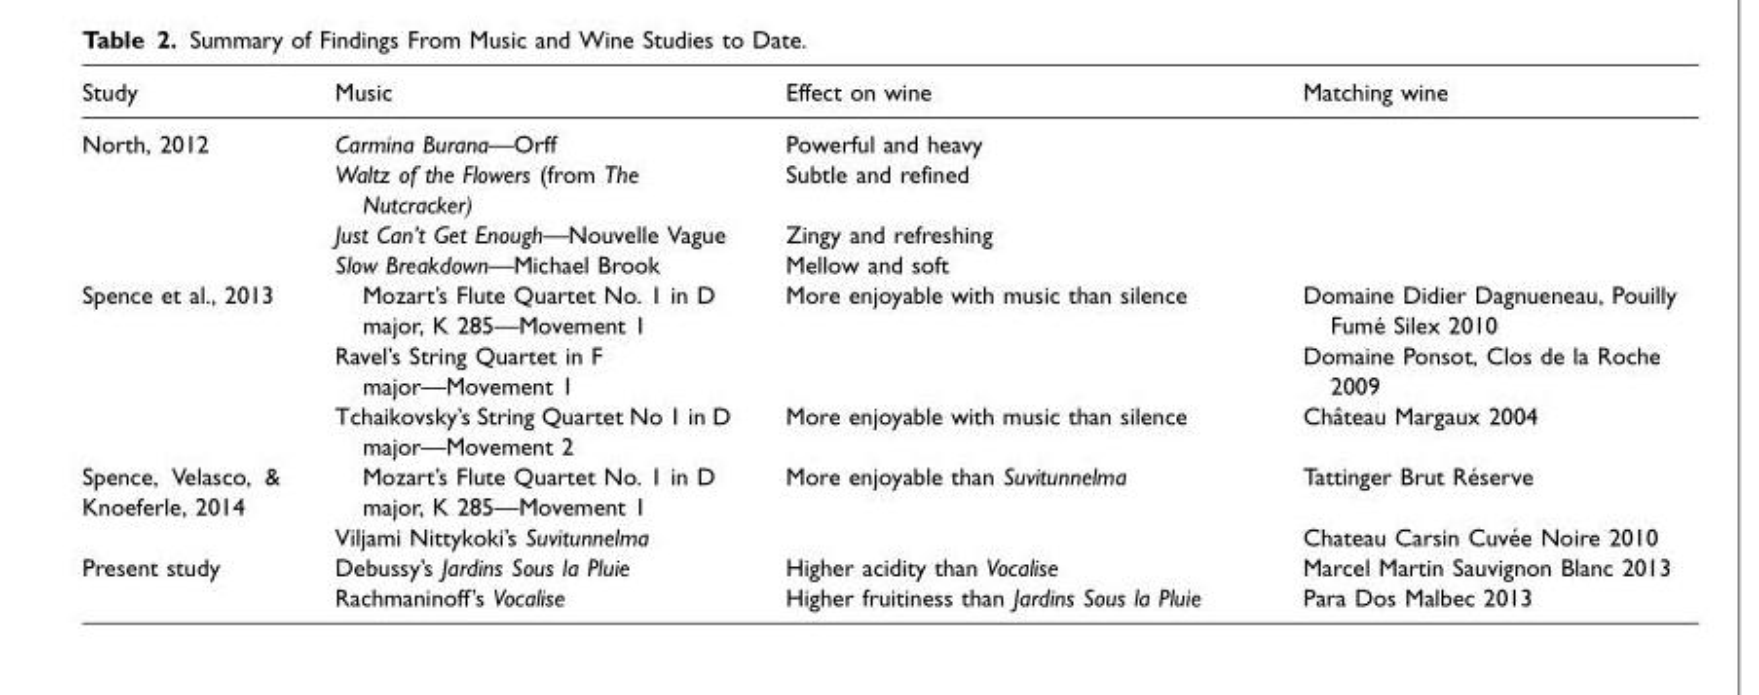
<table><thead><tr><td>Study</td><td>Music</td><td>Effect on wine</td><td>Matching wine</td></tr></thead><tbody><tr><td rowspan="4">North, 2012</td><td>Carmina Burana—Orff</td><td>Powerful and heavy</td><td></td></tr><tr><td>Waltz of the Flowers (from The Nutcracker)</td><td>Subtle and refined</td><td></td></tr><tr><td>Just Can’t Get Enough—Nouvelle Vague</td><td>Zingy and refreshing</td><td></td></tr><tr><td>Slow Breakdown—Michael Brook</td><td>Mellow and soft</td><td></td></tr><tr><td rowspan="3">Spence et al., 2013</td><td>Mozart’s Flute Quartet No. 1 in D major, K 285—Movement 1</td><td>More enjoyable with music than silence</td><td>Domaine Didier Dagnueneau, Pouilly Fume´ Silex 2010</td></tr><tr><td>Ravel’s String Quartet in F major—Movement 1</td><td></td><td>Domaine Ponsot, Clos de la Roche 2009</td></tr><tr><td>Tchaikovsky’s String Quartet No 1 in D major—Movement 2</td><td>More enjoyable with music than silence</td><td>Chaˆteau Margaux 2004</td></tr><tr><td rowspan="2">Spence, Velasco, &amp; Knoeferle, 2014</td><td>Mozart’s Flute Quartet No. 1 in D major, K 285—Movement 1</td><td>More enjoyable than Suvitunnelma</td><td>Tattinger Brut Re´serve</td></tr><tr><td>Viljami Nittykoki’s Suvitunnelma</td><td></td><td>Chateau Carsin Cuve´e Noire 2010</td></tr><tr><td rowspan="2">Present study</td><td>Debussy’s Jardins Sous la Pluie</td><td>Higher acidity than Vocalise</td><td>Marcel Martin Sauvignon Blanc 2013</td></tr><tr><td>Rachmaninoff’s Vocalise</td><td>Higher fruitiness than Jardins Sous la Pluie</td><td>Para Dos Malbec 2013</td></tr></tbody></table>